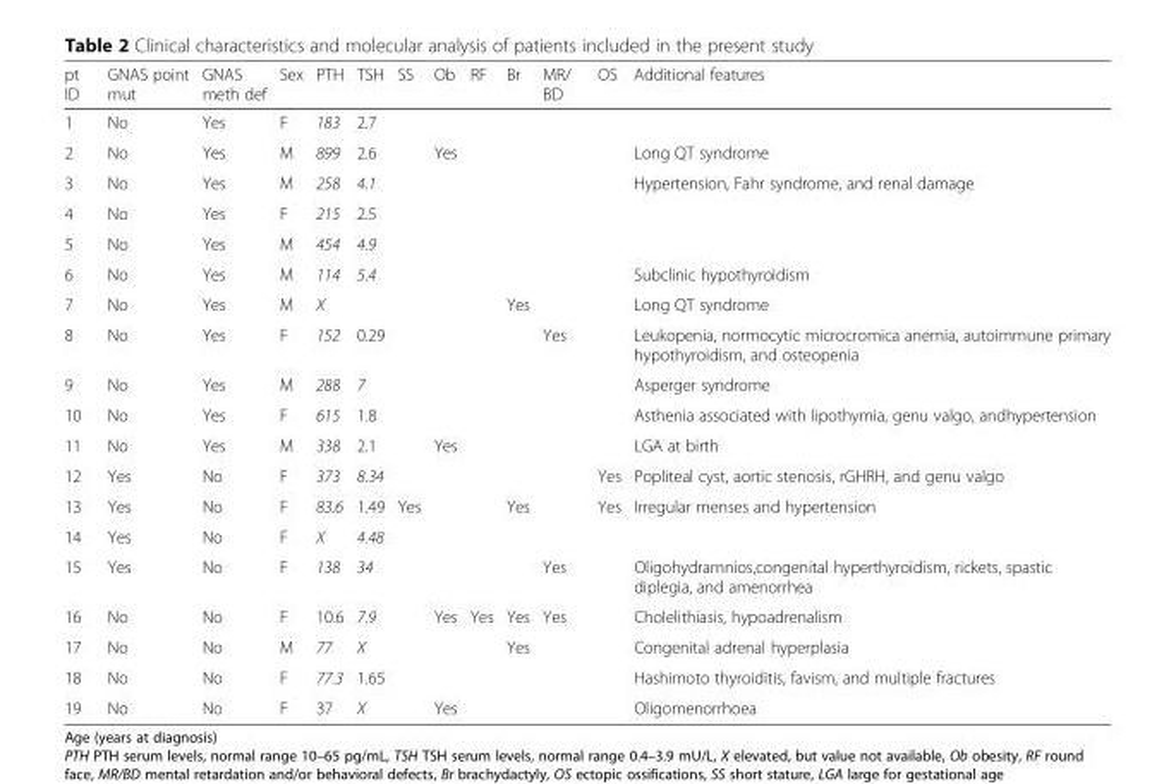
<table><thead><tr><td>pt ID</td><td>GNAS point mut</td><td>GNAS meth def</td><td>Sex</td><td>PTH</td><td>TSH</td><td>SS</td><td>Ob</td><td>RF</td><td>Br</td><td>MR/ BD</td><td>OS</td><td>Additional features</td></tr></thead><tbody><tr><td>1</td><td>No</td><td>Yes</td><td>F</td><td>183</td><td>2.7</td><td></td><td></td><td></td><td></td><td></td><td></td><td></td></tr><tr><td>2</td><td>No</td><td>Yes</td><td>M</td><td>899</td><td>2.6</td><td></td><td>Yes</td><td></td><td></td><td></td><td></td><td>Long QT syndrome</td></tr><tr><td>3</td><td>No</td><td>Yes</td><td>M</td><td>258</td><td>4.1</td><td></td><td></td><td></td><td></td><td></td><td></td><td>Hypertension, Fahr syndrome, and renal damage</td></tr><tr><td>4</td><td>No</td><td>Yes</td><td>F</td><td>215</td><td>2.5</td><td></td><td></td><td></td><td></td><td></td><td></td><td></td></tr><tr><td>5</td><td>No</td><td>Yes</td><td>M</td><td>454</td><td>4.9</td><td></td><td></td><td></td><td></td><td></td><td></td><td></td></tr><tr><td>6</td><td>No</td><td>Yes</td><td>M</td><td>114</td><td>5.4</td><td></td><td></td><td></td><td></td><td></td><td></td><td>Subclinic hypothyroidism</td></tr><tr><td>7</td><td>No</td><td>Yes</td><td>M</td><td>X</td><td></td><td></td><td></td><td></td><td>Yes</td><td></td><td></td><td>Long QT syndrome</td></tr><tr><td>8</td><td>No</td><td>Yes</td><td>F</td><td>152</td><td>0.29</td><td></td><td></td><td></td><td></td><td>Yes</td><td></td><td>Leukopenia, normocytic microcromica anemia, autoimmune primary hypothyroidism, and osteopenia</td></tr><tr><td>9</td><td>No</td><td>Yes</td><td>M</td><td>288</td><td>7</td><td></td><td></td><td></td><td></td><td></td><td></td><td>Asperger syndrome</td></tr><tr><td>10</td><td>No</td><td>Yes</td><td>F</td><td>615</td><td>1.8</td><td></td><td></td><td></td><td></td><td></td><td></td><td>Asthenia associated with lipothymia, genu valgo, andhypertension</td></tr><tr><td>11</td><td>No</td><td>Yes</td><td>M</td><td>338</td><td>2.1</td><td></td><td>Yes</td><td></td><td></td><td></td><td></td><td>LGA at birth</td></tr><tr><td>12</td><td>Yes</td><td>No</td><td>F</td><td>373</td><td>8.34</td><td></td><td></td><td></td><td></td><td></td><td>Yes</td><td>Popliteal cyst, aortic stenosis, rGHRH, and genu valgo</td></tr><tr><td>13</td><td>Yes</td><td>No</td><td>F</td><td>83.6</td><td>1.49</td><td>Yes</td><td></td><td></td><td>Yes</td><td></td><td>Yes</td><td>Irregular menses and hypertension</td></tr><tr><td>14</td><td>Yes</td><td>No</td><td>F</td><td>X</td><td>4.48</td><td></td><td></td><td></td><td></td><td></td><td></td><td></td></tr><tr><td>15</td><td>Yes</td><td>No</td><td>F</td><td>138</td><td>34</td><td></td><td></td><td></td><td></td><td>Yes</td><td></td><td>Oligohydramnios,congenital hyperthyroidism, rickets, spastic diplegia, and amenorrhea</td></tr><tr><td>16</td><td>No</td><td>No</td><td>F</td><td>10.6</td><td>7.9</td><td></td><td>Yes</td><td>Yes</td><td>Yes</td><td>Yes</td><td></td><td>Cholelithiasis, hypoadrenalism</td></tr><tr><td>17</td><td>No</td><td>No</td><td>M</td><td>77</td><td>X</td><td></td><td></td><td></td><td>Yes</td><td></td><td></td><td>Congenital adrenal hyperplasia</td></tr><tr><td>18</td><td>No</td><td>No</td><td>F</td><td>77.3</td><td>1.65</td><td></td><td></td><td></td><td></td><td></td><td></td><td>Hashimoto thyroiditis, favism, and multiple fractures</td></tr><tr><td>19</td><td>No</td><td>No</td><td>F</td><td>37</td><td>X</td><td></td><td>Yes</td><td></td><td></td><td></td><td></td><td>Oligomenorrhoea</td></tr></tbody></table>